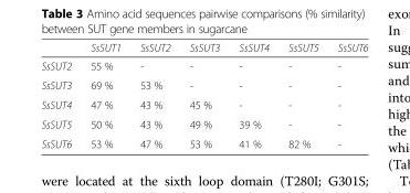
<table><thead><tr><td></td><td>SsSUT1</td><td>SsSUT2</td><td>SsSUT3</td><td>SsSUT4</td><td>SsSUT5</td><td>SsSUT6</td></tr></thead><tbody><tr><td>SsSUT2</td><td>55 %</td><td>-</td><td>-</td><td>-</td><td>-</td><td>-</td></tr><tr><td>SsSUT3</td><td>69 %</td><td>53 %</td><td>-</td><td>-</td><td>-</td><td>-</td></tr><tr><td>SsSUT4</td><td>47 %</td><td>43 %</td><td>45 %</td><td>-</td><td>-</td><td>-</td></tr><tr><td>SsSUT5</td><td>50 %</td><td>43 %</td><td>49 %</td><td>39 %</td><td>-</td><td>-</td></tr><tr><td>SsSUT6</td><td>53 %</td><td>47 %</td><td>53 %</td><td>41 %</td><td>82 %</td><td>-</td></tr></tbody></table>